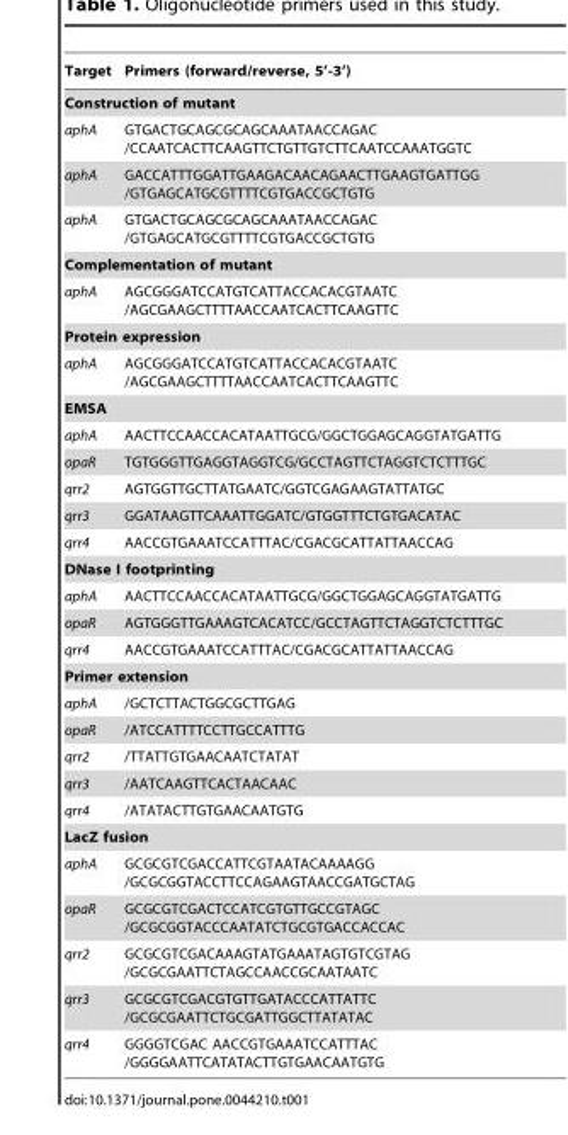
<table><thead><tr><td>Target</td><td>Primers (forward/reverse, 5’-3’)</td></tr></thead><tbody><tr><td colspan="2">Construction of mutant</td></tr><tr><td>aphA</td><td>GTGACTGCAGCGCAGCAAATAACCAGAC /CCAATCACTTCAAGTTCTGTTGTCTTCAATCCAAATGGTC</td></tr><tr><td>aphA</td><td>GACCATTTGGATTGAAGACAACAGAACTTGAAGTGATTGG /GTGAGCATGCGTTTTCGTGACCGCTGTG</td></tr><tr><td>aphA</td><td>GTGACTGCAGCGCAGCAAATAACCAGAC /GTGAGCATGCGTTTTCGTGACCGCTGTG</td></tr><tr><td colspan="2">Complementation of mutant</td></tr><tr><td>aphA</td><td>AGCGGGATCCATGTCATTACCACACGTAATC /AGCGAAGCTTTTAACCAATCACTTCAAGTTC</td></tr><tr><td colspan="2">Protein expression</td></tr><tr><td>aphA</td><td>AGCGGGATCCATGTCATTACCACACGTAATC /AGCGAAGCTTTTAACCAATCACTTCAAGTTC</td></tr><tr><td colspan="2">EMSA</td></tr><tr><td>aphA</td><td>AACTTCCAACCACATAATTGCG/GGCTGGAGCAGGTATGATTG</td></tr><tr><td>opaR</td><td>TGTGGGTTGAGGTAGGTCG/GCCTAGTTCTAGGTCTCTTTGC</td></tr><tr><td>qrr2</td><td>AGTGGTTGCTTATGAATC/GGTCGAGAAGTATTATGC</td></tr><tr><td>qrr3</td><td>GGATAAGTTCAAATTGGATC/GTGGTTTCTGTGACATAC</td></tr><tr><td>qrr4</td><td>AACCGTGAAATCCATTTAC/CGACGCATTATTAACCAG</td></tr><tr><td colspan="2">DNase I footprinting</td></tr><tr><td>aphA</td><td>AACTTCCAACCACATAATTGCG/GGCTGGAGCAGGTATGATTG</td></tr><tr><td>opaR</td><td>AGTGGGTTGAAAGTCACATCC/GCCTAGTTCTAGGTCTCTTTGC</td></tr><tr><td>qrr4</td><td>AACCGTGAAATCCATTTAC/CGACGCATTATTAACCAG</td></tr><tr><td colspan="2">Primer extension</td></tr><tr><td>aphA</td><td>/GCTCTTACTGGCGCTTGAG</td></tr><tr><td>opaR</td><td>/ATCCATTTTCCTTGCCATTTG</td></tr><tr><td>qrr2</td><td>/TTATTGTGAACAATCTATAT</td></tr><tr><td>qrr3</td><td>/AATCAAGTTCACTAACAAC</td></tr><tr><td>qrr4</td><td>/ATATACTTGTGAACAATGTG</td></tr><tr><td colspan="2">LacZ fusion</td></tr><tr><td>aphA</td><td>GCGCGTCGACCATTCGTAATACAAAAGG /GCGCGGTACCTTCCAGAAGTAACCGATGCTAG</td></tr><tr><td>opaR</td><td>GCGCGTCGACTCCATCGTGTTGCCGTAGC /GCGCGGTACCCAATATCTGCGTGACCACCAC</td></tr><tr><td>qrr2</td><td>GCGCGTCGACAAAGTATGAAATAGTGTCGTAG /GCGCGAATTCTAGCCAACCGCAATAATC</td></tr><tr><td>qrr3</td><td>GCGCGTCGACGTGTTGATACCCATTATTC /GCGCGAATTCTGCGATTGGCTTATATAC</td></tr><tr><td>qrr4</td><td>GGGGTCGAC AACCGTGAAATCCATTTAC /GGGGAATTCATATACTTGTGAACAATGTG</td></tr></tbody></table>